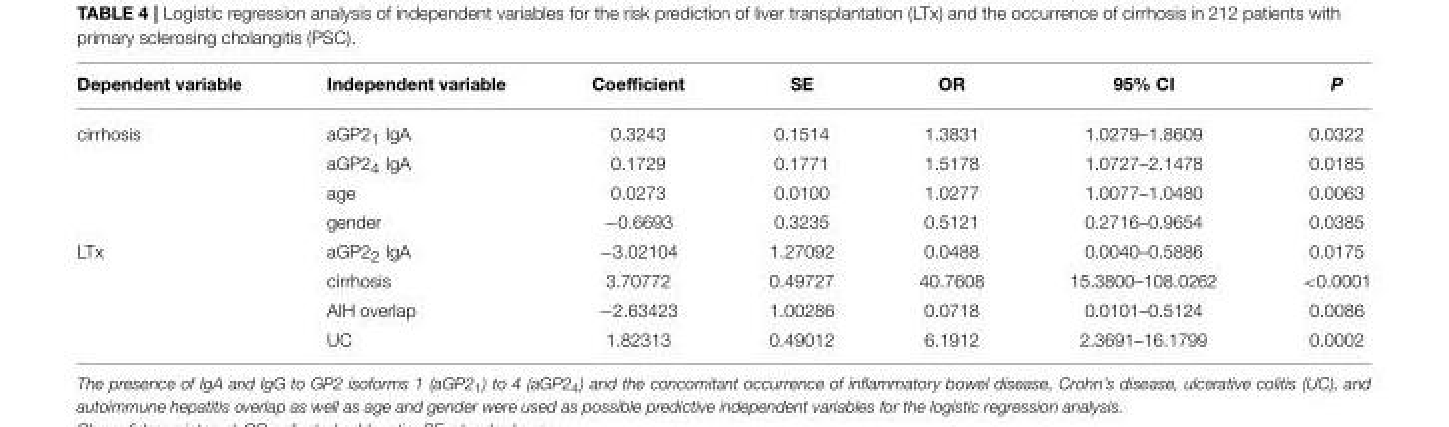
<table><thead><tr><td>Dependent variable</td><td>Independent variable</td><td>Coefficient</td><td>SE</td><td>OR</td><td>95% CI</td><td>P</td></tr></thead><tbody><tr><td rowspan="4">cirrhosis</td><td>aGP2<sub>1</sub> IgA</td><td>0.3243</td><td>0.1514</td><td>1.3831</td><td>1.0279–1.8609</td><td>0.0322</td></tr><tr><td>aGP2<sub>4</sub> IgA</td><td>0.1729</td><td>0.1771</td><td>1.5178</td><td>1.0727–2.1478</td><td>0.0185</td></tr><tr><td>age</td><td>0.0273</td><td>0.0100</td><td>1.0277</td><td>1.0077–1.0480</td><td>0.0063</td></tr><tr><td>gender</td><td>−0.6693</td><td>0.3235</td><td>0.5121</td><td>0.2716–0.9654</td><td>0.0385</td></tr><tr><td rowspan="4">LTx</td><td>aGP2<sub>2</sub> IgA</td><td>−3.02104</td><td>1.27092</td><td>0.0488</td><td>0.0040–0.5886</td><td>0.0175</td></tr><tr><td>cirrhosis</td><td>3.70772</td><td>0.49727</td><td>40.7608</td><td>15.3800–108.0262</td><td>&lt;0.0001</td></tr><tr><td>AIH overlap</td><td>−2.63423</td><td>1.00286</td><td>0.0718</td><td>0.0101–0.5124</td><td>0.0086</td></tr><tr><td>UC</td><td>1.82313</td><td>0.49012</td><td>6.1912</td><td>2.3691–16.1799</td><td>0.0002</td></tr></tbody></table>